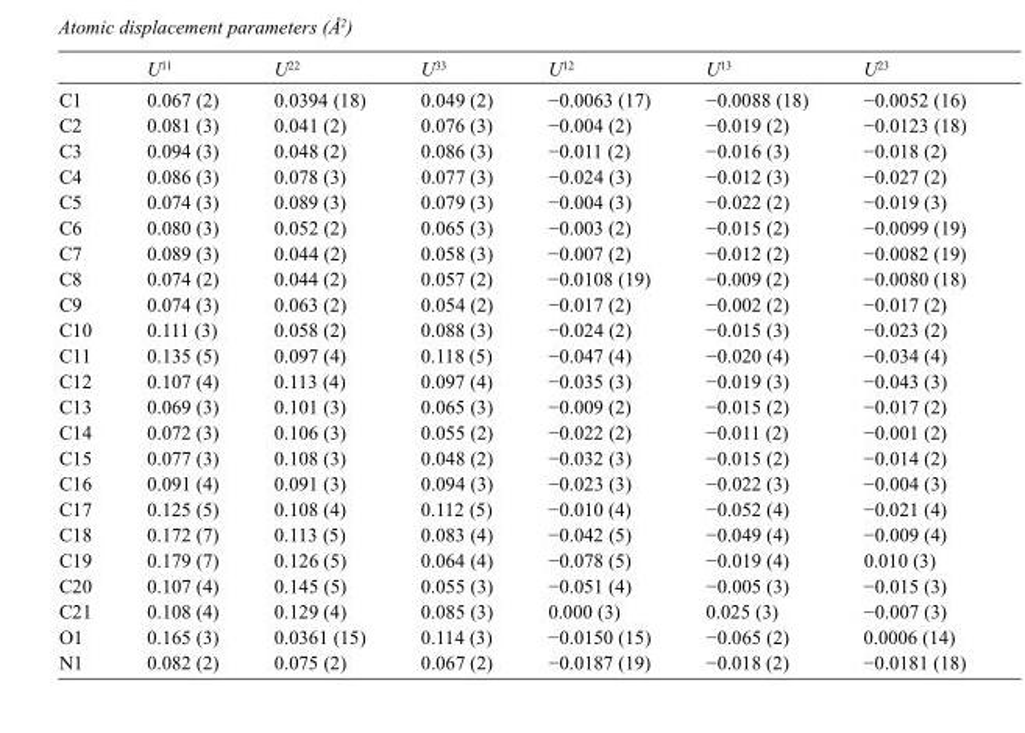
<table><thead><tr><td></td><td>U<sup>11</sup></td><td>U<sup>22</sup></td><td>U<sup>33</sup></td><td>U<sup>12</sup></td><td>U<sup>13</sup></td><td>U<sup>23</sup></td></tr></thead><tbody><tr><td>C1</td><td>0.067 (2)</td><td>0.0394 (18)</td><td>0.049 (2)</td><td>−0.0063 (17)</td><td>−0.0088 (18)</td><td>−0.0052 (16)</td></tr><tr><td>C2</td><td>0.081 (3)</td><td>0.041 (2)</td><td>0.076 (3)</td><td>−0.004 (2)</td><td>−0.019 (2)</td><td>−0.0123 (18)</td></tr><tr><td>C3</td><td>0.094 (3)</td><td>0.048 (2)</td><td>0.086 (3)</td><td>−0.011 (2)</td><td>−0.016 (3)</td><td>−0.018 (2)</td></tr><tr><td>C4</td><td>0.086 (3)</td><td>0.078 (3)</td><td>0.077 (3)</td><td>−0.024 (3)</td><td>−0.012 (3)</td><td>−0.027 (2)</td></tr><tr><td>C5</td><td>0.074 (3)</td><td>0.089 (3)</td><td>0.079 (3)</td><td>−0.004 (3)</td><td>−0.022 (2)</td><td>−0.019 (3)</td></tr><tr><td>C6</td><td>0.080 (3)</td><td>0.052 (2)</td><td>0.065 (3)</td><td>−0.003 (2)</td><td>−0.015 (2)</td><td>−0.0099 (19)</td></tr><tr><td>C7</td><td>0.089 (3)</td><td>0.044 (2)</td><td>0.058 (3)</td><td>−0.007 (2)</td><td>−0.012 (2)</td><td>−0.0082 (19)</td></tr><tr><td>C8</td><td>0.074 (2)</td><td>0.044 (2)</td><td>0.057 (2)</td><td>−0.0108 (19)</td><td>−0.009 (2)</td><td>−0.0080 (18)</td></tr><tr><td>C9</td><td>0.074 (3)</td><td>0.063 (2)</td><td>0.054 (2)</td><td>−0.017 (2)</td><td>−0.002 (2)</td><td>−0.017 (2)</td></tr><tr><td>C10</td><td>0.111 (3)</td><td>0.058 (2)</td><td>0.088 (3)</td><td>−0.024 (2)</td><td>−0.015 (3)</td><td>−0.023 (2)</td></tr><tr><td>C11</td><td>0.135 (5)</td><td>0.097 (4)</td><td>0.118 (5)</td><td>−0.047 (4)</td><td>−0.020 (4)</td><td>−0.034 (4)</td></tr><tr><td>C12</td><td>0.107 (4)</td><td>0.113 (4)</td><td>0.097 (4)</td><td>−0.035 (3)</td><td>−0.019 (3)</td><td>−0.043 (3)</td></tr><tr><td>C13</td><td>0.069 (3)</td><td>0.101 (3)</td><td>0.065 (3)</td><td>−0.009 (2)</td><td>−0.015 (2)</td><td>−0.017 (2)</td></tr><tr><td>C14</td><td>0.072 (3)</td><td>0.106 (3)</td><td>0.055 (2)</td><td>−0.022 (2)</td><td>−0.011 (2)</td><td>−0.001 (2)</td></tr><tr><td>C15</td><td>0.077 (3)</td><td>0.108 (3)</td><td>0.048 (2)</td><td>−0.032 (3)</td><td>−0.015 (2)</td><td>−0.014 (2)</td></tr><tr><td>C16</td><td>0.091 (4)</td><td>0.091 (3)</td><td>0.094 (3)</td><td>−0.023 (3)</td><td>−0.022 (3)</td><td>−0.004 (3)</td></tr><tr><td>C17</td><td>0.125 (5)</td><td>0.108 (4)</td><td>0.112 (5)</td><td>−0.010 (4)</td><td>−0.052 (4)</td><td>−0.021 (4)</td></tr><tr><td>C18</td><td>0.172 (7)</td><td>0.113 (5)</td><td>0.083 (4)</td><td>−0.042 (5)</td><td>−0.049 (4)</td><td>−0.009 (4)</td></tr><tr><td>C19</td><td>0.179 (7)</td><td>0.126 (5)</td><td>0.064 (4)</td><td>−0.078 (5)</td><td>−0.019 (4)</td><td>0.010 (3)</td></tr><tr><td>C20</td><td>0.107 (4)</td><td>0.145 (5)</td><td>0.055 (3)</td><td>−0.051 (4)</td><td>−0.005 (3)</td><td>−0.015 (3)</td></tr><tr><td>C21</td><td>0.108 (4)</td><td>0.129 (4)</td><td>0.085 (3)</td><td>0.000 (3)</td><td>0.025 (3)</td><td>−0.007 (3)</td></tr><tr><td>O1</td><td>0.165 (3)</td><td>0.0361 (15)</td><td>0.114 (3)</td><td>−0.0150 (15)</td><td>−0.065 (2)</td><td>0.0006 (14)</td></tr><tr><td>N1</td><td>0.082 (2)</td><td>0.075 (2)</td><td>0.067 (2)</td><td>−0.0187 (19)</td><td>−0.018 (2)</td><td>−0.0181 (18)</td></tr></tbody></table>